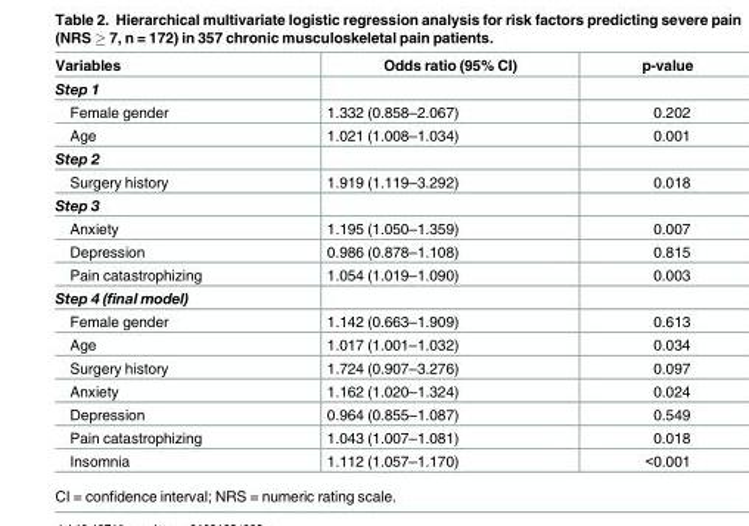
<table><thead><tr><td>Variables</td><td>Odds ratio (95% CI)</td><td>p-value</td></tr></thead><tbody><tr><td colspan="3">Step 1</td></tr><tr><td>Female gender</td><td>1.332 (0.858–2.067)</td><td>0.202</td></tr><tr><td>Age</td><td>1.021 (1.008–1.034)</td><td>0.001</td></tr><tr><td colspan="3">Step 2</td></tr><tr><td>Surgery history</td><td>1.919 (1.119–3.292)</td><td>0.018</td></tr><tr><td colspan="3">Step 3</td></tr><tr><td>Anxiety</td><td>1.195 (1.050–1.359)</td><td>0.007</td></tr><tr><td>Depression</td><td>0.986 (0.878–1.108)</td><td>0.815</td></tr><tr><td>Pain catastrophizing</td><td>1.054 (1.019–1.090)</td><td>0.003</td></tr><tr><td colspan="3">Step 4 (final model)</td></tr><tr><td>Female gender</td><td>1.142 (0.663–1.909)</td><td>0.613</td></tr><tr><td>Age</td><td>1.017 (1.001–1.032)</td><td>0.034</td></tr><tr><td>Surgery history</td><td>1.724 (0.907–3.276)</td><td>0.097</td></tr><tr><td>Anxiety</td><td>1.162 (1.020–1.324)</td><td>0.024</td></tr><tr><td>Depression</td><td>0.964 (0.855–1.087)</td><td>0.549</td></tr><tr><td>Pain catastrophizing</td><td>1.043 (1.007–1.081)</td><td>0.018</td></tr><tr><td>Insomnia</td><td>1.112 (1.057–1.170)</td><td>&lt;0.001</td></tr></tbody></table>